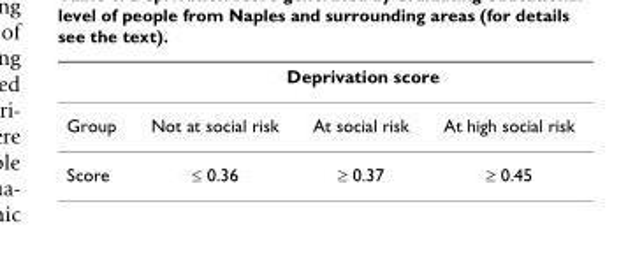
<table><thead><tr><td rowspan="2">Group</td><td colspan="3">Deprivation score</td></tr><tr><td>Not at social risk</td><td>At social risk</td><td>At high social risk</td></tr></thead><tbody><tr><td>Score</td><td>≤ 0.36</td><td>≥ 0.37</td><td>≥ 0.45</td></tr></tbody></table>